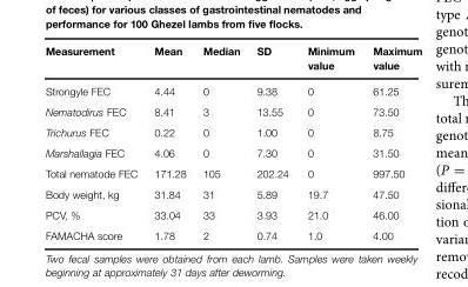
<table><thead><tr><td>Measurement</td><td>Mean</td><td>Median</td><td>SD</td><td>Minimum value</td><td>Maximum value</td></tr></thead><tbody><tr><td>Strongyle FEC</td><td>4.44</td><td>0</td><td>9.38</td><td>0</td><td>61.25</td></tr><tr><td>Nematodirus FEC</td><td>8.41</td><td>3</td><td>13.55</td><td>0</td><td>73.50</td></tr><tr><td>Trichurus FEC</td><td>0.22</td><td>0</td><td>1.00</td><td>0</td><td>8.75</td></tr><tr><td>Marshallagia FEC</td><td>4.06</td><td>0</td><td>7.30</td><td>0</td><td>31.50</td></tr><tr><td>Total nematode FEC</td><td>171.28</td><td>105</td><td>202.24</td><td>0</td><td>997.50</td></tr><tr><td>Body weight, kg</td><td>31.84</td><td>31</td><td>5.89</td><td>19.7</td><td>47.50</td></tr><tr><td>PCV, %</td><td>33.04</td><td>33</td><td>3.93</td><td>21.0</td><td>46.00</td></tr><tr><td>FAMACHA score</td><td>1.78</td><td>2</td><td>0.74</td><td>1.0</td><td>4.00</td></tr></tbody></table>